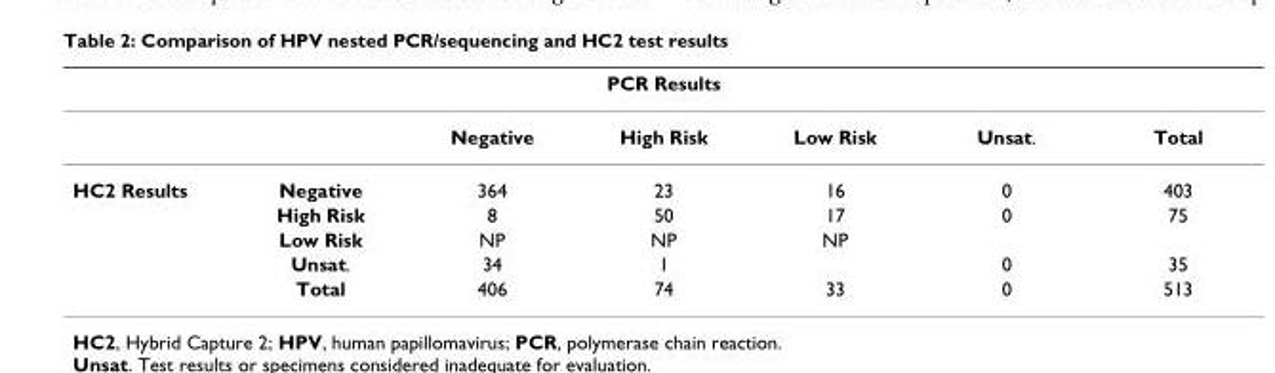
<table><thead><tr><td rowspan="2"></td><td rowspan="2"></td><td colspan="3">PCR Results</td><td rowspan="2">Unsat.</td><td rowspan="2">Total</td></tr><tr><td>Negative</td><td>High Risk</td><td>Low Risk</td></tr></thead><tbody><tr><td rowspan="5">HC2 Results</td><td>Negative</td><td>364</td><td>23</td><td>16</td><td>0</td><td>403</td></tr><tr><td>High Risk</td><td>8</td><td>50</td><td>17</td><td>0</td><td>75</td></tr><tr><td>Low Risk</td><td>NP</td><td>NP</td><td>NP</td><td></td><td></td></tr><tr><td>Unsat.</td><td>34</td><td>1</td><td></td><td>0</td><td>35</td></tr><tr><td>Total</td><td>406</td><td>74</td><td>33</td><td>0</td><td>513</td></tr></tbody></table>